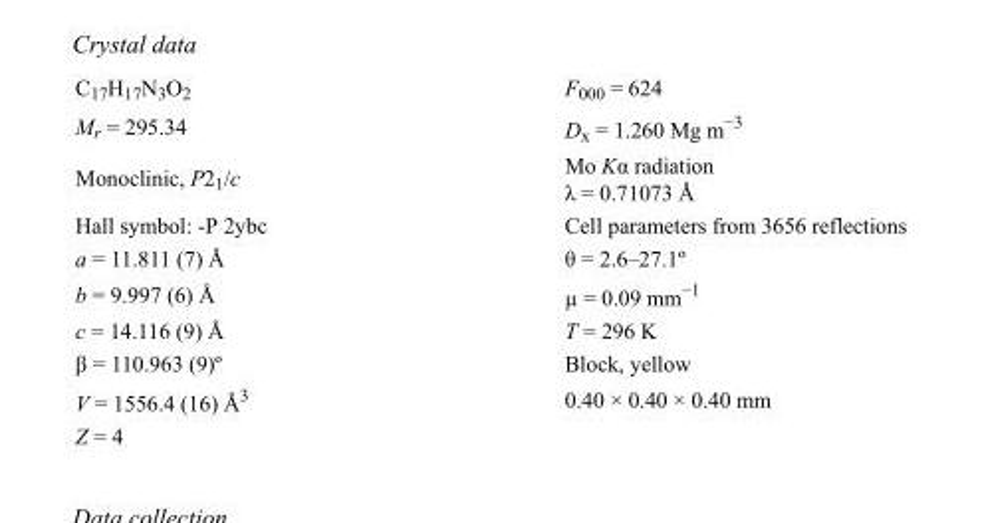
<table><tbody><tr><td>C<sub>17</sub>H<sub>17</sub>N<sub>3</sub>O<sub>2</sub></td><td>F<sub>000</sub> = 624</td></tr><tr><td>M<sub>r</sub> = 295.34</td><td>D<sub>x</sub> = 1.260 Mg m<sup>−3</sup></td></tr><tr><td>Monoclinic, P2<sub>1</sub>/c</td><td>Mo Kα radiation λ = 0.71073 Å</td></tr><tr><td>Hall symbol: -P 2ybc</td><td>Cell parameters from 3656 reflections</td></tr><tr><td>a = 11.811 (7) Å</td><td>θ = 2.6–27.1º</td></tr><tr><td>b = 9.997 (6) Å</td><td>µ = 0.09 mm<sup>−1</sup></td></tr><tr><td>c = 14.116 (9) Å</td><td>T = 296 K</td></tr><tr><td>β = 110.963 (9)º</td><td>Block, yellow</td></tr><tr><td>V = 1556.4 (16) Å<sup>3</sup></td><td>0.40 × 0.40 × 0.40 mm</td></tr><tr><td>Z = 4</td><td></td></tr></tbody></table>